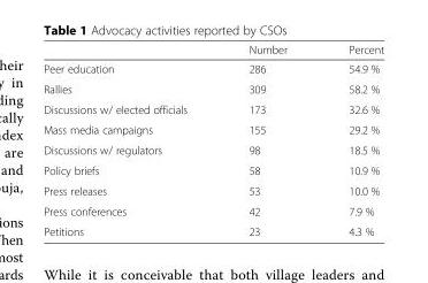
<table><thead><tr><td></td><td>Number</td><td>Percent</td></tr></thead><tbody><tr><td>Peer education</td><td>286</td><td>54.9 %</td></tr><tr><td>Rallies</td><td>309</td><td>58.2 %</td></tr><tr><td>Discussions w/ elected officials</td><td>173</td><td>32.6 %</td></tr><tr><td>Mass media campaigns</td><td>155</td><td>29.2 %</td></tr><tr><td>Discussions w/ regulators</td><td>98</td><td>18.5 %</td></tr><tr><td>Policy briefs</td><td>58</td><td>10.9 %</td></tr><tr><td>Press releases</td><td>53</td><td>10.0 %</td></tr><tr><td>Press conferences</td><td>42</td><td>7.9 %</td></tr><tr><td>Petitions</td><td>23</td><td>4.3 %</td></tr></tbody></table>